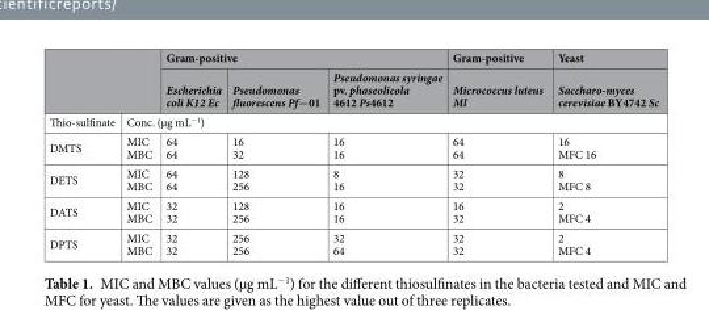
<table><thead><tr><td rowspan="2"></td><td rowspan="2"></td><td colspan="3">Gram-positive</td><td rowspan="2">Gram-positive Micrococcus luteus Ml</td><td rowspan="2">Yeast Saccharo-myces cerevisiae BY4742 Sc</td></tr><tr><td>Escherichia coli K12 Ec</td><td>Pseudomonas fluorescens Pf−01</td><td>Pseudomonas syringae pv. phaseolicola 4612 Ps4612</td></tr></thead><tbody><tr><td>Thio-sulfinate</td><td colspan="6">Conc. (µg mL<sup>−1</sup>)</td></tr><tr><td>DMTS</td><td>MIC MBC</td><td>64 64</td><td>16 32</td><td>16 16</td><td>64 64</td><td>16 MFC 16</td></tr><tr><td>DETS</td><td>MIC MBC</td><td>64 64</td><td>128 256</td><td>8 16</td><td>32 32</td><td>8 MFC 8</td></tr><tr><td>DATS</td><td>MIC MBC</td><td>32 32</td><td>128 256</td><td>16 16</td><td>16 32</td><td>2 MFC 4</td></tr><tr><td>DPTS</td><td>MIC MBC</td><td>32 32</td><td>256 256</td><td>32 64</td><td>32 32</td><td>2 MFC 4</td></tr></tbody></table>